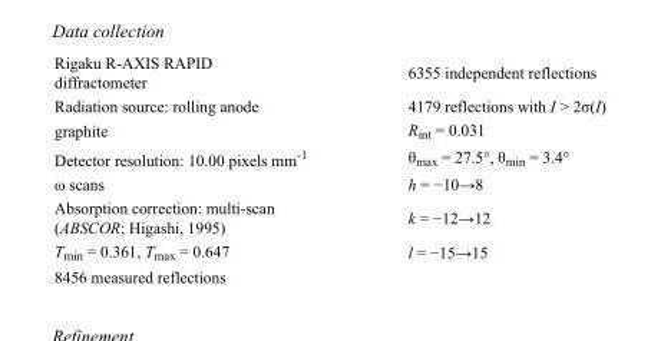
<table><tbody><tr><td>Rigaku R-AXIS RAPID diffractometer</td><td>6355 independent reflections</td></tr><tr><td>Radiation source: rolling anode</td><td>4179 reflections with I &gt; 2σ(I)</td></tr><tr><td>graphite</td><td>R<sub>int</sub> = 0.031</td></tr><tr><td>Detector resolution: 10.00 pixels mm<sup>-1</sup></td><td>θ<sub>max</sub> = 27.5°, θ<sub>min</sub> = 3.4°</td></tr><tr><td>ω scans</td><td>h = −10→8</td></tr><tr><td>Absorption correction: multi-scan (ABSCOR; Higashi, 1995)</td><td>k = −12→12</td></tr><tr><td>T<sub>min</sub> = 0.361, T<sub>max</sub> = 0.647</td><td>l = −15→15</td></tr><tr><td>8456 measured reflections</td><td></td></tr></tbody></table>